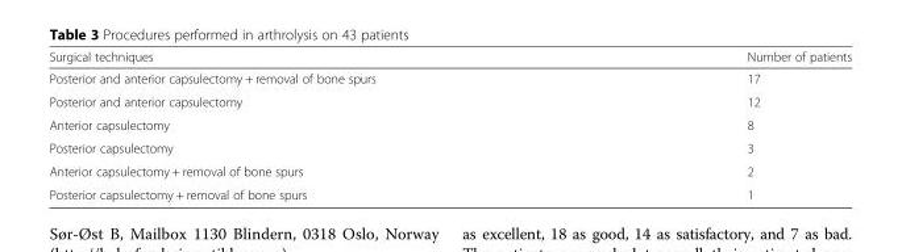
<table><thead><tr><td>Surgical techniques</td><td>Number of patients</td></tr></thead><tbody><tr><td>Posterior and anterior capsulectomy + removal of bone spurs</td><td>17</td></tr><tr><td>Posterior and anterior capsulectomy</td><td>12</td></tr><tr><td>Anterior capsulectomy</td><td>8</td></tr><tr><td>Posterior capsulectomy</td><td>3</td></tr><tr><td>Anterior capsulectomy + removal of bone spurs</td><td>2</td></tr><tr><td>Posterior capsulectomy + removal of bone spurs</td><td>1</td></tr></tbody></table>